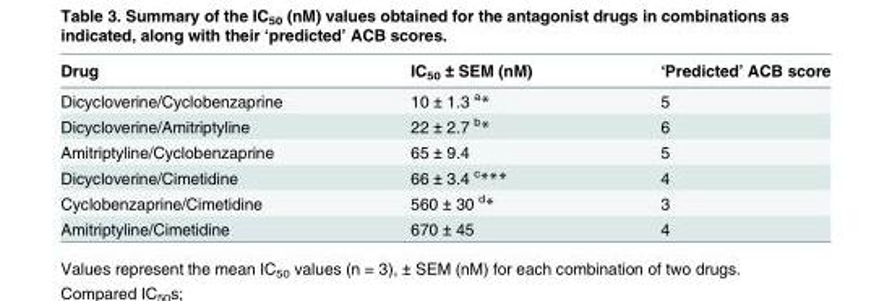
<table><thead><tr><td>Drug</td><td>IC<sub>50</sub> ± SEM (nM)</td><td>‘Predicted’ ACB score</td></tr></thead><tbody><tr><td>Dicycloverine/Cyclobenzaprine</td><td>10 ± 1.3 <sup>a</sup>*</td><td>5</td></tr><tr><td>Dicycloverine/Amitriptyline</td><td>22 ± 2.7 <sup>b</sup>*</td><td>6</td></tr><tr><td>Amitriptyline/Cyclobenzaprine</td><td>65 ± 9.4</td><td>5</td></tr><tr><td>Dicycloverine/Cimetidine</td><td>66 ± 3.4 <sup>c</sup>***</td><td>4</td></tr><tr><td>Cyclobenzaprine/Cimetidine</td><td>560 ± 30 <sup>d</sup>*</td><td>3</td></tr><tr><td>Amitriptyline/Cimetidine</td><td>670 ± 45</td><td>4</td></tr></tbody></table>